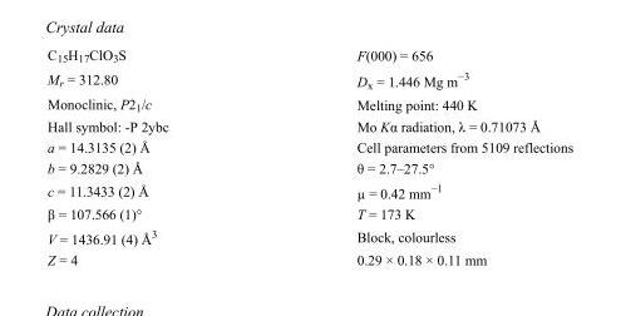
<table><tbody><tr><td>C<sub>15</sub>H<sub>17</sub>ClO<sub>3</sub>S</td><td>F(000) = 656</td></tr><tr><td>M<sub>r</sub> = 312.80</td><td>D<sub>x</sub> = 1.446 Mg m<sup>−3</sup></td></tr><tr><td>Monoclinic, P2<sub>1</sub>/c</td><td>Melting point: 440 K</td></tr><tr><td>Hall symbol: -P 2ybc</td><td>Mo Kα radiation, λ = 0.71073 Å</td></tr><tr><td>a = 14.3135 (2) Å</td><td>Cell parameters from 5109 reflections</td></tr><tr><td>b = 9.2829 (2) Å</td><td>θ = 2.7–27.5°</td></tr><tr><td>c = 11.3433 (2) Å</td><td>µ = 0.42 mm<sup>−1</sup></td></tr><tr><td>β = 107.566 (1)°</td><td>T = 173 K</td></tr><tr><td>V = 1436.91 (4) Å<sup>3</sup></td><td>Block, colourless</td></tr><tr><td>Z = 4</td><td>0.29 × 0.18 × 0.11 mm</td></tr></tbody></table>